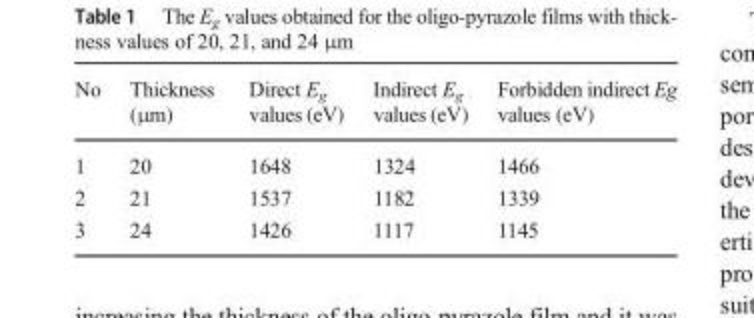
<table><thead><tr><td>No</td><td>Thickness (μm)</td><td>Direct E<sub>g</sub> values (eV)</td><td>Indirect E<sub>g</sub> values (eV)</td><td>Forbidden indirect Eg values (eV)</td></tr></thead><tbody><tr><td>1</td><td>20</td><td>1648</td><td>1324</td><td>1466</td></tr><tr><td>2</td><td>21</td><td>1537</td><td>1182</td><td>1339</td></tr><tr><td>3</td><td>24</td><td>1426</td><td>1117</td><td>1145</td></tr></tbody></table>